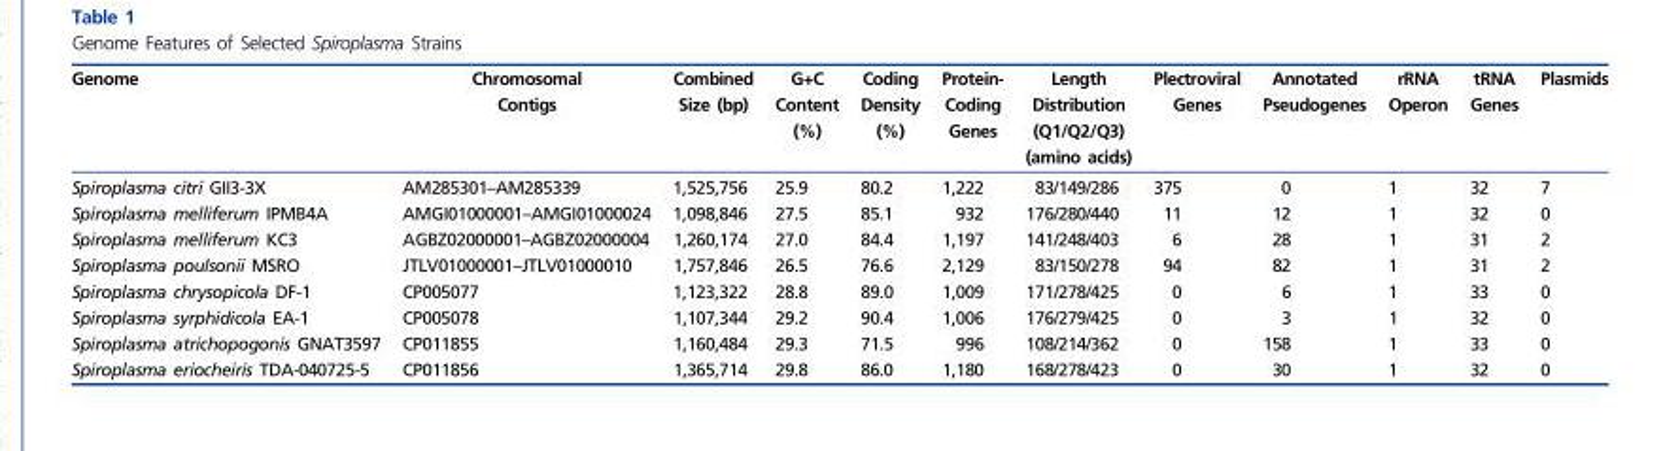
<table><thead><tr><td>Genome</td><td>Chromosomal Contigs</td><td>Combined Size (bp)</td><td>G+C Content (%)</td><td>Coding Density (%)</td><td>Protein- Coding Genes</td><td>Length Distribution (Q1/Q2/Q3) (amino acids)</td><td>Plectroviral Genes</td><td>Annotated Pseudogenes</td><td>rRNA Operon</td><td>tRNA Genes</td><td>Plasmids</td></tr></thead><tbody><tr><td>Spiroplasma citri GII3-3X</td><td>AM285301–AM285339</td><td>1,525,756</td><td>25.9</td><td>80.2</td><td>1,222</td><td>83/149/286</td><td>375</td><td>0</td><td>1</td><td>32</td><td>7</td></tr><tr><td>Spiroplasma melliferum IPMB4A</td><td>AMGI01000001–AMGI01000024</td><td>1,098,846</td><td>27.5</td><td>85.1</td><td>932</td><td>176/280/440</td><td>11</td><td>12</td><td>1</td><td>32</td><td>0</td></tr><tr><td>Spiroplasma melliferum KC3</td><td>AGBZ02000001–AGBZ02000004</td><td>1,260,174</td><td>27.0</td><td>84.4</td><td>1,197</td><td>141/248/403</td><td>6</td><td>28</td><td>1</td><td>31</td><td>2</td></tr><tr><td>Spiroplasma poulsonii MSRO</td><td>JTLV01000001–JTLV01000010</td><td>1,757,846</td><td>26.5</td><td>76.6</td><td>2,129</td><td>83/150/278</td><td>94</td><td>82</td><td>1</td><td>31</td><td>2</td></tr><tr><td>Spiroplasma chrysopicola DF-1</td><td>CP005077</td><td>1,123,322</td><td>28.8</td><td>89.0</td><td>1,009</td><td>171/278/425</td><td>0</td><td>6</td><td>1</td><td>33</td><td>0</td></tr><tr><td>Spiroplasma syrphidicola EA-1</td><td>CP005078</td><td>1,107,344</td><td>29.2</td><td>90.4</td><td>1,006</td><td>176/279/425</td><td>0</td><td>3</td><td>1</td><td>32</td><td>0</td></tr><tr><td>Spiroplasma atrichopogonis GNAT3597</td><td>CP011855</td><td>1,160,484</td><td>29.3</td><td>71.5</td><td>996</td><td>108/214/362</td><td>0</td><td>158</td><td>1</td><td>33</td><td>0</td></tr><tr><td>Spiroplasma eriocheiris TDA-040725-5</td><td>CP011856</td><td>1,365,714</td><td>29.8</td><td>86.0</td><td>1,180</td><td>168/278/423</td><td>0</td><td>30</td><td>1</td><td>32</td><td>0</td></tr></tbody></table>